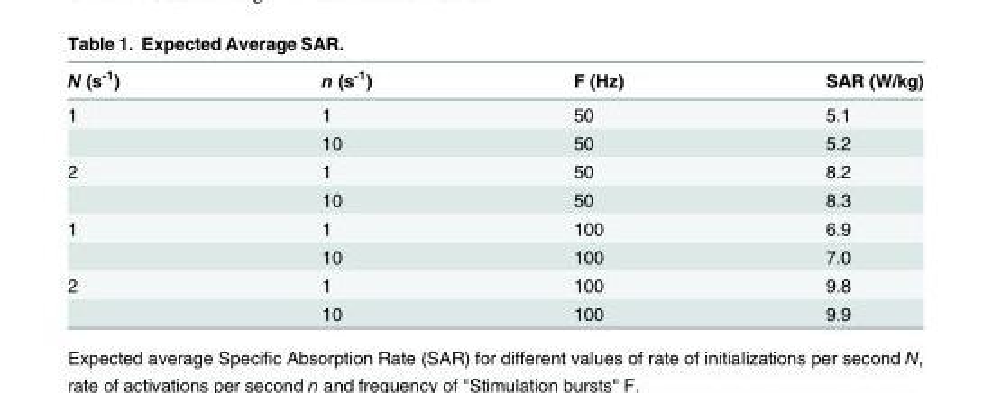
<table><thead><tr><td>N (s<sup>-1</sup>)</td><td>n (s<sup>-1</sup>)</td><td>F (Hz)</td><td>SAR (W/kg)</td></tr></thead><tbody><tr><td rowspan="2">1</td><td>1</td><td>50</td><td>5.1</td></tr><tr><td>10</td><td>50</td><td>5.2</td></tr><tr><td rowspan="2">2</td><td>1</td><td>50</td><td>8.2</td></tr><tr><td>10</td><td>50</td><td>8.3</td></tr><tr><td rowspan="2">1</td><td>1</td><td>100</td><td>6.9</td></tr><tr><td>10</td><td>100</td><td>7.0</td></tr><tr><td rowspan="2">2</td><td>1</td><td>100</td><td>9.8</td></tr><tr><td>10</td><td>100</td><td>9.9</td></tr></tbody></table>